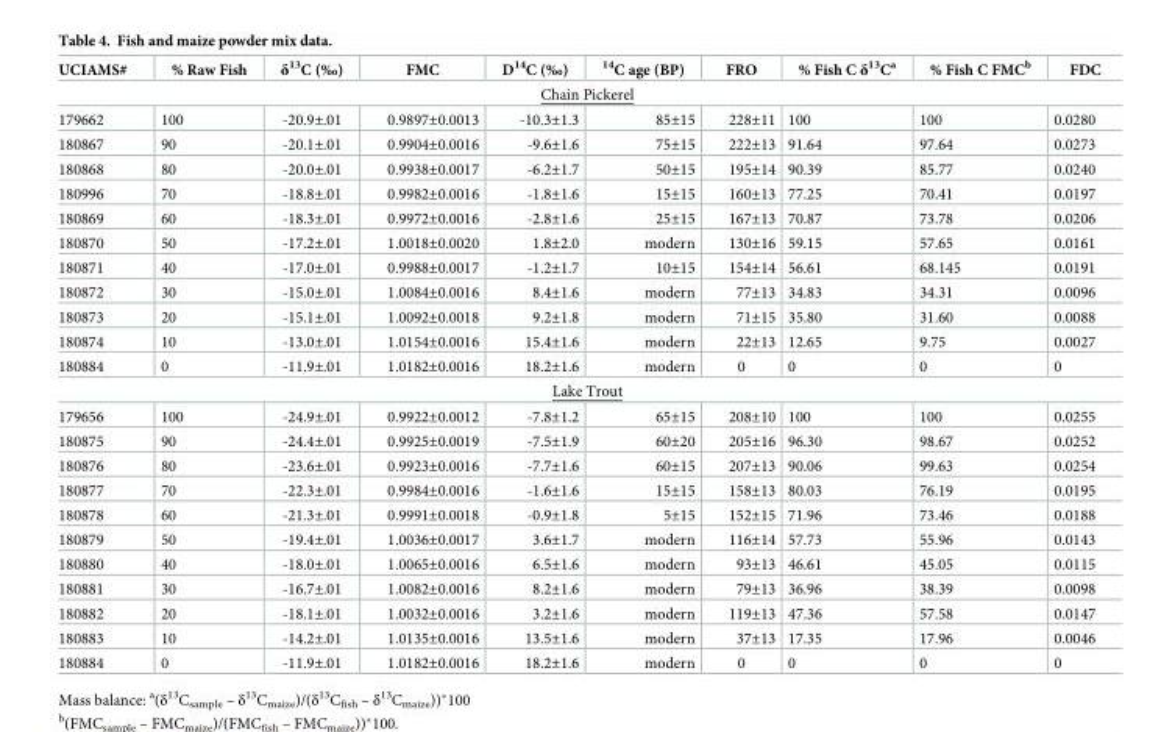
<table><thead><tr><td>UCIAMS#</td><td>% Raw Fish</td><td>δ<sup>13</sup>C (‰)</td><td>FMC</td><td>D<sup>14</sup>C (‰)</td><td><sup>14</sup>C age (BP)</td><td>FRO</td><td>% Fish C δ<sup>13</sup>C<sup>a</sup></td><td>% Fish C FMC<sup>b</sup></td><td>FDC</td></tr></thead><tbody><tr><td colspan="10">Chain Pickerel</td></tr><tr><td>179662</td><td>100</td><td>-20.9±.01</td><td>0.9897±0.0013</td><td>-10.3±1.3</td><td>85±15</td><td>228±11</td><td>100</td><td>100</td><td>0.0280</td></tr><tr><td>180867</td><td>90</td><td>-20.1±.01</td><td>0.9904±0.0016</td><td>-9.6±1.6</td><td>75±15</td><td>222±13</td><td>91.64</td><td>97.64</td><td>0.0273</td></tr><tr><td>180868</td><td>80</td><td>-20.0±.01</td><td>0.9938±0.0017</td><td>-6.2±1.7</td><td>50±15</td><td>195±14</td><td>90.39</td><td>85.77</td><td>0.0240</td></tr><tr><td>180996</td><td>70</td><td>-18.8±.01</td><td>0.9982±0.0016</td><td>-1.8±1.6</td><td>15±15</td><td>160±13</td><td>77.25</td><td>70.41</td><td>0.0197</td></tr><tr><td>180869</td><td>60</td><td>-18.3±.01</td><td>0.9972±0.0016</td><td>-2.8±1.6</td><td>25±15</td><td>167±13</td><td>70.87</td><td>73.78</td><td>0.0206</td></tr><tr><td>180870</td><td>50</td><td>-17.2±.01</td><td>1.0018±0.0020</td><td>1.8±2.0</td><td>modern</td><td>130±16</td><td>59.15</td><td>57.65</td><td>0.0161</td></tr><tr><td>180871</td><td>40</td><td>-17.0±.01</td><td>0.9988±0.0017</td><td>-1.2±1.7</td><td>10±15</td><td>154±14</td><td>56.61</td><td>68.145</td><td>0.0191</td></tr><tr><td>180872</td><td>30</td><td>-15.0±.01</td><td>1.0084±0.0016</td><td>8.4±1.6</td><td>modern</td><td>77±13</td><td>34.83</td><td>34.31</td><td>0.0096</td></tr><tr><td>180873</td><td>20</td><td>-15.1±.01</td><td>1.0092±0.0018</td><td>9.2±1.8</td><td>modern</td><td>71±15</td><td>35.80</td><td>31.60</td><td>0.0088</td></tr><tr><td>180874</td><td>10</td><td>-13.0±.01</td><td>1.0154±0.0016</td><td>15.4±1.6</td><td>modern</td><td>22±13</td><td>12.65</td><td>9.75</td><td>0.0027</td></tr><tr><td>180884</td><td>0</td><td>-11.9±.01</td><td>1.0182±0.0016</td><td>18.2±1.6</td><td>modern</td><td>0</td><td>0</td><td>0</td><td>0</td></tr><tr><td colspan="10">Lake Trout</td></tr><tr><td>179656</td><td>100</td><td>-24.9±.01</td><td>0.9922±0.0012</td><td>-7.8±1.2</td><td>65±15</td><td>208±10</td><td>100</td><td>100</td><td>0.0255</td></tr><tr><td>180875</td><td>90</td><td>-24.4±.01</td><td>0.9925±0.0019</td><td>-7.5±1.9</td><td>60±20</td><td>205±16</td><td>96.30</td><td>98.67</td><td>0.0252</td></tr><tr><td>180876</td><td>80</td><td>-23.6±.01</td><td>0.9923±0.0016</td><td>-7.7±1.6</td><td>60±15</td><td>207±13</td><td>90.06</td><td>99.63</td><td>0.0254</td></tr><tr><td>180877</td><td>70</td><td>-22.3±.01</td><td>0.9984±0.0016</td><td>-1.6±1.6</td><td>15±15</td><td>158±13</td><td>80.03</td><td>76.19</td><td>0.0195</td></tr><tr><td>180878</td><td>60</td><td>-21.3±.01</td><td>0.9991±0.0018</td><td>-0.9±1.8</td><td>5±15</td><td>152±15</td><td>71.96</td><td>73.46</td><td>0.0188</td></tr><tr><td>180879</td><td>50</td><td>-19.4±.01</td><td>1.0036±0.0017</td><td>3.6±1.7</td><td>modern</td><td>116±14</td><td>57.73</td><td>55.96</td><td>0.0143</td></tr><tr><td>180880</td><td>40</td><td>-18.0±.01</td><td>1.0065±0.0016</td><td>6.5±1.6</td><td>modern</td><td>93±13</td><td>46.61</td><td>45.05</td><td>0.0115</td></tr><tr><td>180881</td><td>30</td><td>-16.7±.01</td><td>1.0082±0.0016</td><td>8.2±1.6</td><td>modern</td><td>79±13</td><td>36.96</td><td>38.39</td><td>0.0098</td></tr><tr><td>180882</td><td>20</td><td>-18.1±.01</td><td>1.0032±0.0016</td><td>3.2±1.6</td><td>modern</td><td>119±13</td><td>47.36</td><td>57.58</td><td>0.0147</td></tr><tr><td>180883</td><td>10</td><td>-14.2±.01</td><td>1.0135±0.0016</td><td>13.5±1.6</td><td>modern</td><td>37±13</td><td>17.35</td><td>17.96</td><td>0.0046</td></tr><tr><td>180884</td><td>0</td><td>-11.9±.01</td><td>1.0182±0.0016</td><td>18.2±1.6</td><td>modern</td><td>0</td><td>0</td><td>0</td><td>0</td></tr></tbody></table>